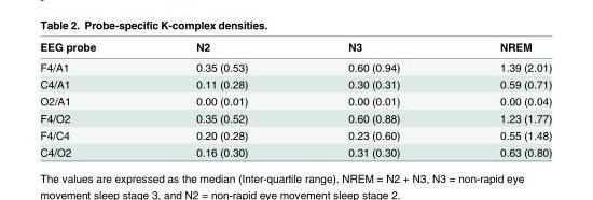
<table><thead><tr><td>EEG probe</td><td>N2</td><td>N3</td><td>NREM</td></tr></thead><tbody><tr><td>F4/A1</td><td>0.35 (0.53)</td><td>0.60 (0.94)</td><td>1.39 (2.01)</td></tr><tr><td>C4/A1</td><td>0.11 (0.28)</td><td>0.30 (0.31)</td><td>0.59 (0.71)</td></tr><tr><td>O2/A1</td><td>0.00 (0.01)</td><td>0.00 (0.01)</td><td>0.00 (0.04)</td></tr><tr><td>F4/O2</td><td>0.35 (0.52)</td><td>0.60 (0.88)</td><td>1.23 (1.77)</td></tr><tr><td>F4/C4</td><td>0.20 (0.28)</td><td>0.23 (0.60)</td><td>0.55 (1.48)</td></tr><tr><td>C4/O2</td><td>0.16 (0.30)</td><td>0.31 (0.30)</td><td>0.63 (0.80)</td></tr></tbody></table>